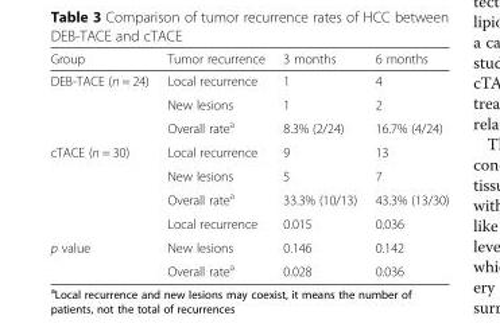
<table><thead><tr><td>Group</td><td>Tumor recurrence</td><td>3 months</td><td>6 months</td></tr></thead><tbody><tr><td rowspan="3">DEB-TACE (n = 24)</td><td>Local recurrence</td><td>1</td><td>4</td></tr><tr><td>New lesions</td><td>1</td><td>2</td></tr><tr><td>Overall rate<sup>a</sup></td><td>8.3% (2/24)</td><td>16.7% (4/24)</td></tr><tr><td rowspan="4">cTACE (n = 30)</td><td>Local recurrence</td><td>9</td><td>13</td></tr><tr><td>New lesions</td><td>5</td><td>7</td></tr><tr><td>Overall rate<sup>a</sup></td><td>33.3% (10/13)</td><td>43.3% (13/30)</td></tr><tr><td>Local recurrence</td><td>0.015</td><td>0.036</td></tr><tr><td rowspan="2">p value</td><td>New lesions</td><td>0.146</td><td>0.142</td></tr><tr><td>Overall rate<sup>a</sup></td><td>0.028</td><td>0.036</td></tr></tbody></table>